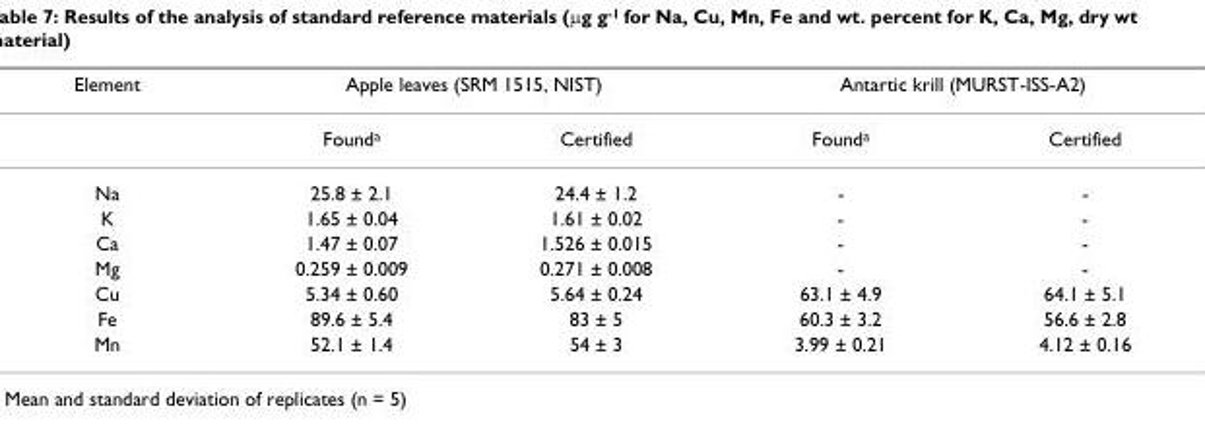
<table><thead><tr><td rowspan="2">Element</td><td colspan="2">Apple leaves (SRM 1515, NIST)</td><td colspan="2">Antartic krill (MURST-ISS-A2)</td></tr><tr><td>Found<sup>a</sup></td><td>Certified</td><td>Found<sup>a</sup></td><td>Certified</td></tr></thead><tbody><tr><td>Na</td><td>25.8 ± 2.1</td><td>24.4 ± 1.2</td><td>-</td><td>-</td></tr><tr><td>K</td><td>1.65 ± 0.04</td><td>1.61 ± 0.02</td><td>-</td><td>-</td></tr><tr><td>Ca</td><td>1.47 ± 0.07</td><td>1.526 ± 0.015</td><td>-</td><td>-</td></tr><tr><td>Mg</td><td>0.259 ± 0.009</td><td>0.271 ± 0.008</td><td>-</td><td>-</td></tr><tr><td>Cu</td><td>5.34 ± 0.60</td><td>5.64 ± 0.24</td><td>63.1 ± 4.9</td><td>64.1 ± 5.1</td></tr><tr><td>Fe</td><td>89.6 ± 5.4</td><td>83 ± 5</td><td>60.3 ± 3.2</td><td>56.6 ± 2.8</td></tr><tr><td>Mn</td><td>52.1 ± 1.4</td><td>54 ± 3</td><td>3.99 ± 0.21</td><td>4.12 ± 0.16</td></tr></tbody></table>